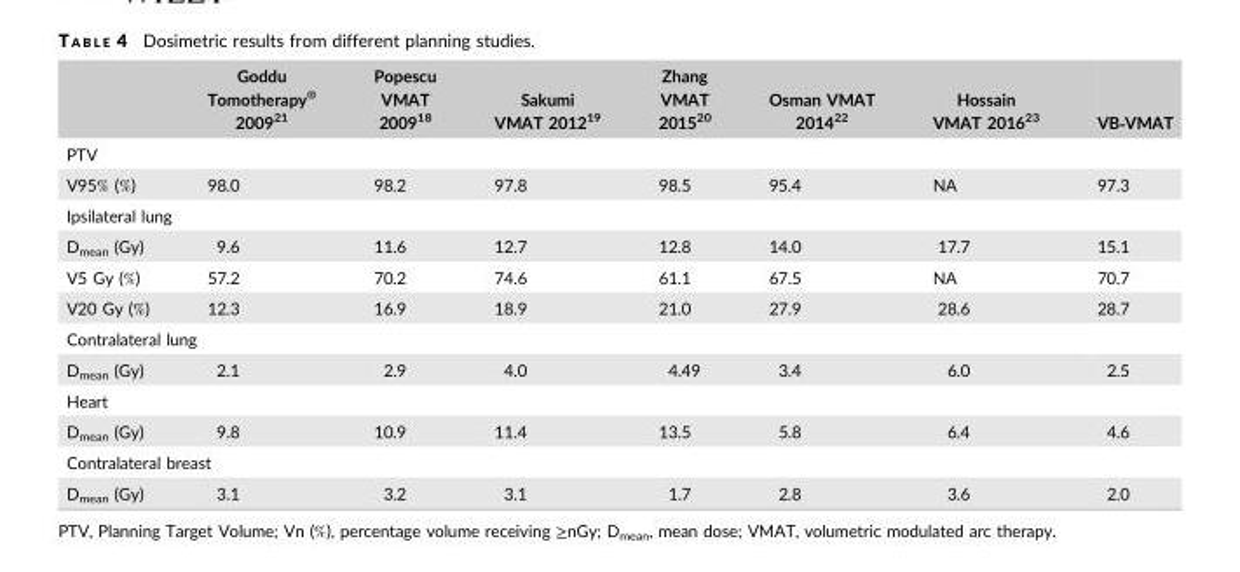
<table><thead><tr><td></td><td>Goddu Tomotherapy<sup>®</sup> 2009<sup>21</sup></td><td>Popescu VMAT 2009<sup>18</sup></td><td>Sakumi VMAT 2012<sup>19</sup></td><td>Zhang VMAT 2015<sup>20</sup></td><td>Osman VMAT 2014<sup>22</sup></td><td>Hossain VMAT 2016<sup>23</sup></td><td>VB‐VMAT</td></tr></thead><tbody><tr><td colspan="8">PTV</td></tr><tr><td>V95% (%)</td><td>98.0</td><td>98.2</td><td>97.8</td><td>98.5</td><td>95.4</td><td>NA</td><td>97.3</td></tr><tr><td colspan="8">Ipsilateral lung</td></tr><tr><td>D<sub>mean</sub> (Gy)</td><td>9.6</td><td>11.6</td><td>12.7</td><td>12.8</td><td>14.0</td><td>17.7</td><td>15.1</td></tr><tr><td>V5 Gy (%)</td><td>57.2</td><td>70.2</td><td>74.6</td><td>61.1</td><td>67.5</td><td>NA</td><td>70.7</td></tr><tr><td>V20 Gy (%)</td><td>12.3</td><td>16.9</td><td>18.9</td><td>21.0</td><td>27.9</td><td>28.6</td><td>28.7</td></tr><tr><td colspan="8">Contralateral lung</td></tr><tr><td>D<sub>mean</sub> (Gy)</td><td>2.1</td><td>2.9</td><td>4.0</td><td>4.49</td><td>3.4</td><td>6.0</td><td>2.5</td></tr><tr><td colspan="8">Heart</td></tr><tr><td>D<sub>mean</sub> (Gy)</td><td>9.8</td><td>10.9</td><td>11.4</td><td>13.5</td><td>5.8</td><td>6.4</td><td>4.6</td></tr><tr><td colspan="8">Contralateral breast</td></tr><tr><td>D<sub>mean</sub> (Gy)</td><td>3.1</td><td>3.2</td><td>3.1</td><td>1.7</td><td>2.8</td><td>3.6</td><td>2.0</td></tr></tbody></table>